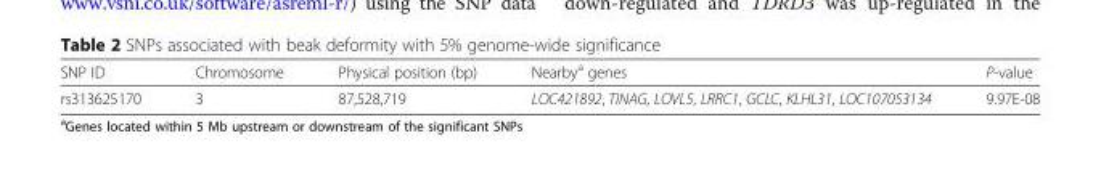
<table><thead><tr><td>SNP ID</td><td>Chromosome</td><td>Physical position (bp)</td><td>Nearby<sup>a</sup> genes</td><td>P-value</td></tr></thead><tbody><tr><td>rs313625170</td><td>3</td><td>87,528,719</td><td>LOC421892, TINAG, LOVL5, LRRC1, GCLC, KLHL31, LOC107053134</td><td>9.97E-08</td></tr></tbody></table>